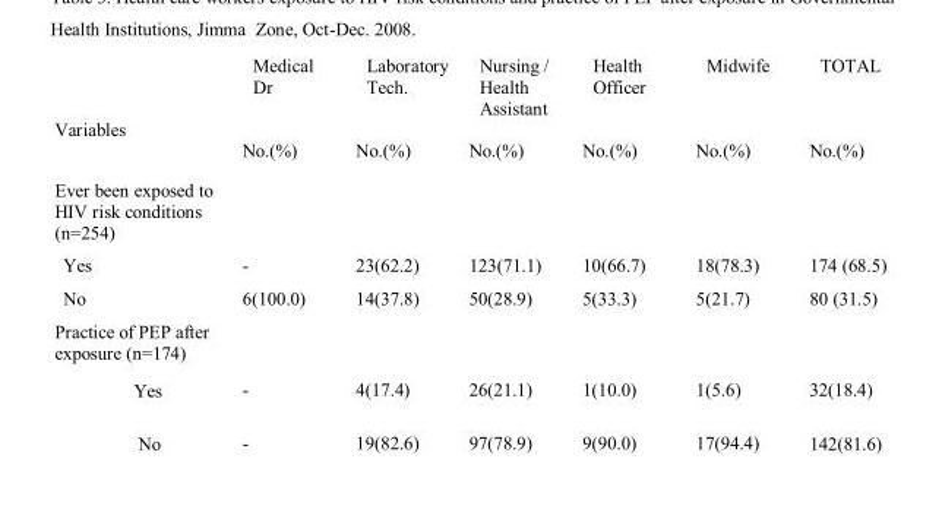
<table><thead><tr><td rowspan="3" colspan="2">Variables Ever been exposed to HIV risk conditions (n=254)</td><td rowspan="4">Medical Dr No.(%) -</td><td rowspan="4">Laboratory Tech. No.(%) 23(62.2)</td><td rowspan="4">Nursing / Health Assistant No.(%) 123(71.1)</td><td rowspan="4">Health Officer No.(%) 10(66.7)</td><td rowspan="4">Midwife No.(%) 18(78.3)</td><td rowspan="4">TOTAL No.(%) 174 (68.5)</td></tr><tr></tr><tr></tr><tr><td>Yes</td><td></td></tr></thead><tbody><tr><td>No</td><td></td><td>6(100.0)</td><td>14(37.8)</td><td>50(28.9)</td><td>5(33.3)</td><td>5(21.7)</td><td>80 (31.5)</td></tr><tr><td colspan="8">Practice of PEP after exposure (n=174)</td></tr><tr><td></td><td>Yes</td><td>-</td><td>4(17.4)</td><td>26(21.1)</td><td>1(10.0)</td><td>1(5.6)</td><td>32(18.4)</td></tr><tr><td></td><td>No</td><td>-</td><td>19(82.6)</td><td>97(78.9)</td><td>9(90.0)</td><td>17(94.4)</td><td>142(81.6)</td></tr></tbody></table>